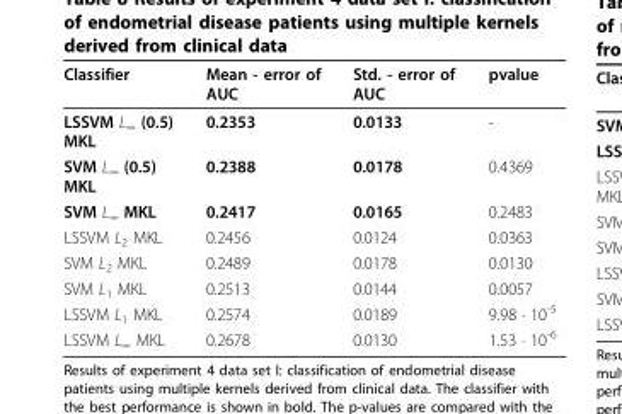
<table><thead><tr><td>Classifier</td><td>Mean - error of AUC</td><td>Std. - error of AUC</td><td>pvalue</td></tr></thead><tbody><tr><td>LSSVM L<sub>∞</sub> (0.5) MKL</td><td>0.2353</td><td>0.0133</td><td>-</td></tr><tr><td>SVM L<sub>∞</sub> (0.5) MKL</td><td>0.2388</td><td>0.0178</td><td>0.4369</td></tr><tr><td>SVM L<sub>∞</sub> MKL</td><td>0.2417</td><td>0.0165</td><td>0.2483</td></tr><tr><td>LSSVM L<sub>2</sub> MKL</td><td>0.2456</td><td>0.0124</td><td>0.0363</td></tr><tr><td>SVM L<sub>2</sub> MKL</td><td>0.2489</td><td>0.0178</td><td>0.0130</td></tr><tr><td>SVM L<sub>1</sub> MKL</td><td>0.2513</td><td>0.0144</td><td>0.0057</td></tr><tr><td>LSSVM L<sub>1</sub> MKL</td><td>0.2574</td><td>0.0189</td><td>9.98 · 10<sup>-5</sup></td></tr><tr><td>LSSVM L<sub>∞</sub> MKL</td><td>0.2678</td><td>0.0130</td><td>1.53 · 10<sup>-6</sup></td></tr></tbody></table>